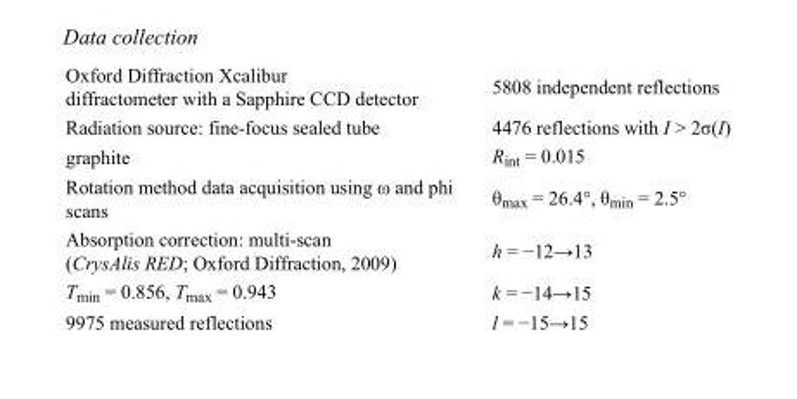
<table><tbody><tr><td>Oxford Diffraction Xcalibur diffractometer with a Sapphire CCD detector</td><td>5808 independent reflections</td></tr><tr><td>Radiation source: fine-focus sealed tube</td><td>4476 reflections with I &gt; 2σ(I)</td></tr><tr><td>graphite</td><td>R<sub>int</sub> = 0.015</td></tr><tr><td>Rotation method data acquisition using ω and phi scans</td><td>θ<sub>max</sub> = 26.4°, θ<sub>min</sub> = 2.5°</td></tr><tr><td>Absorption correction: multi-scan (CrysAlis RED; Oxford Diffraction, 2009)</td><td>h = −12→13</td></tr><tr><td>T<sub>min</sub> = 0.856, T<sub>max</sub> = 0.943</td><td>k = −14→15</td></tr><tr><td>9975 measured reflections</td><td>l = −15→15</td></tr></tbody></table>